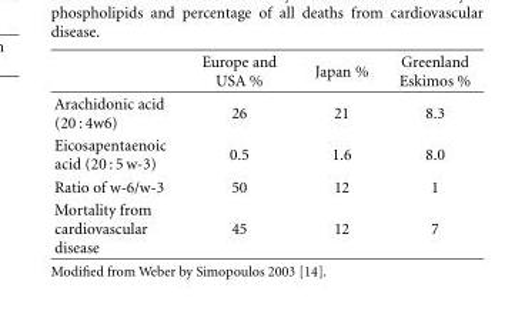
<table><thead><tr><td></td><td>Europe and USA %</td><td>Japan %</td><td>Greenland Eskimos %</td></tr></thead><tbody><tr><td>Arachidonic acid (20 : 4w6)</td><td>26</td><td>21</td><td>8.3</td></tr><tr><td>Eicosapentaenoic acid (20 : 5 w-3)</td><td>0.5</td><td>1.6</td><td>8.0</td></tr><tr><td>Ratio of w-6/w-3</td><td>50</td><td>12</td><td>1</td></tr><tr><td>Mortality from cardiovascular disease</td><td>45</td><td>12</td><td>7</td></tr></tbody></table>